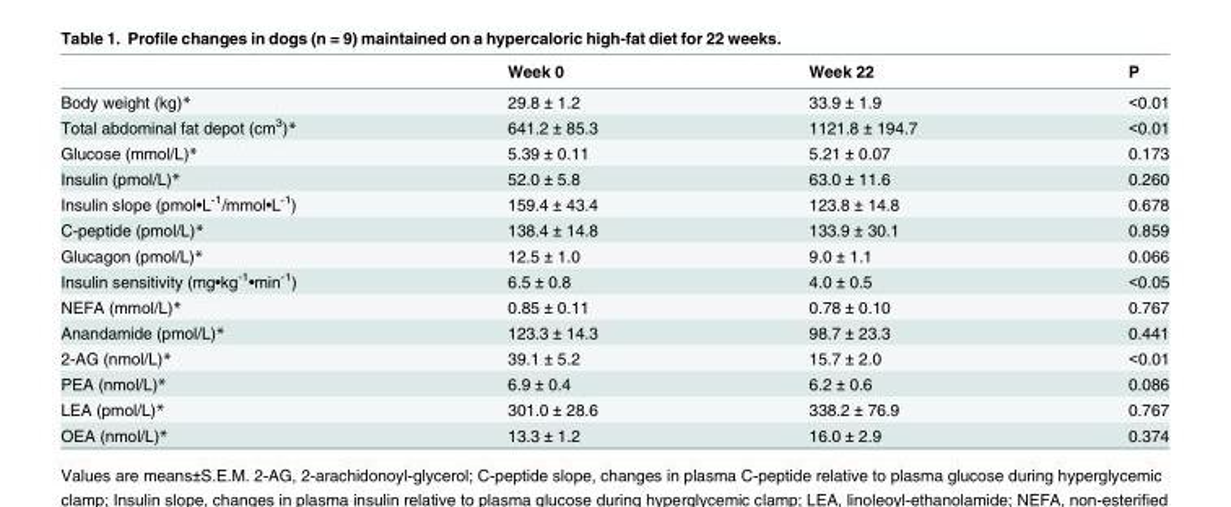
<table><thead><tr><td></td><td>Week 0</td><td>Week 22</td><td>P</td></tr></thead><tbody><tr><td>Body weight (kg)*</td><td>29.8 ± 1.2</td><td>33.9 ± 1.9</td><td>&lt;0.01</td></tr><tr><td>Total abdominal fat depot (cm<sup>3</sup>)*</td><td>641.2 ± 85.3</td><td>1121.8 ± 194.7</td><td>&lt;0.01</td></tr><tr><td>Glucose (mmol/L)*</td><td>5.39 ± 0.11</td><td>5.21 ± 0.07</td><td>0.173</td></tr><tr><td>Insulin (pmol/L)*</td><td>52.0 ± 5.8</td><td>63.0 ± 11.6</td><td>0.260</td></tr><tr><td>Insulin slope (pmol•L<sup>-1</sup>/mmol•L<sup>-1</sup>)</td><td>159.4 ± 43.4</td><td>123.8 ± 14.8</td><td>0.678</td></tr><tr><td>C-peptide (pmol/L)*</td><td>138.4 ± 14.8</td><td>133.9 ± 30.1</td><td>0.859</td></tr><tr><td>Glucagon (pmol/L)*</td><td>12.5 ± 1.0</td><td>9.0 ± 1.1</td><td>0.066</td></tr><tr><td>Insulin sensitivity (mg•kg<sup>-1</sup>•min<sup>-1</sup>)</td><td>6.5 ± 0.8</td><td>4.0 ± 0.5</td><td>&lt;0.05</td></tr><tr><td>NEFA (mmol/L)*</td><td>0.85 ± 0.11</td><td>0.78 ± 0.10</td><td>0.767</td></tr><tr><td>Anandamide (pmol/L)*</td><td>123.3 ± 14.3</td><td>98.7 ± 23.3</td><td>0.441</td></tr><tr><td>2-AG (nmol/L)*</td><td>39.1 ± 5.2</td><td>15.7 ± 2.0</td><td>&lt;0.01</td></tr><tr><td>PEA (nmol/L)*</td><td>6.9 ± 0.4</td><td>6.2 ± 0.6</td><td>0.086</td></tr><tr><td>LEA (pmol/L)*</td><td>301.0 ± 28.6</td><td>338.2 ± 76.9</td><td>0.767</td></tr><tr><td>OEA (nmol/L)*</td><td>13.3 ± 1.2</td><td>16.0 ± 2.9</td><td>0.374</td></tr></tbody></table>